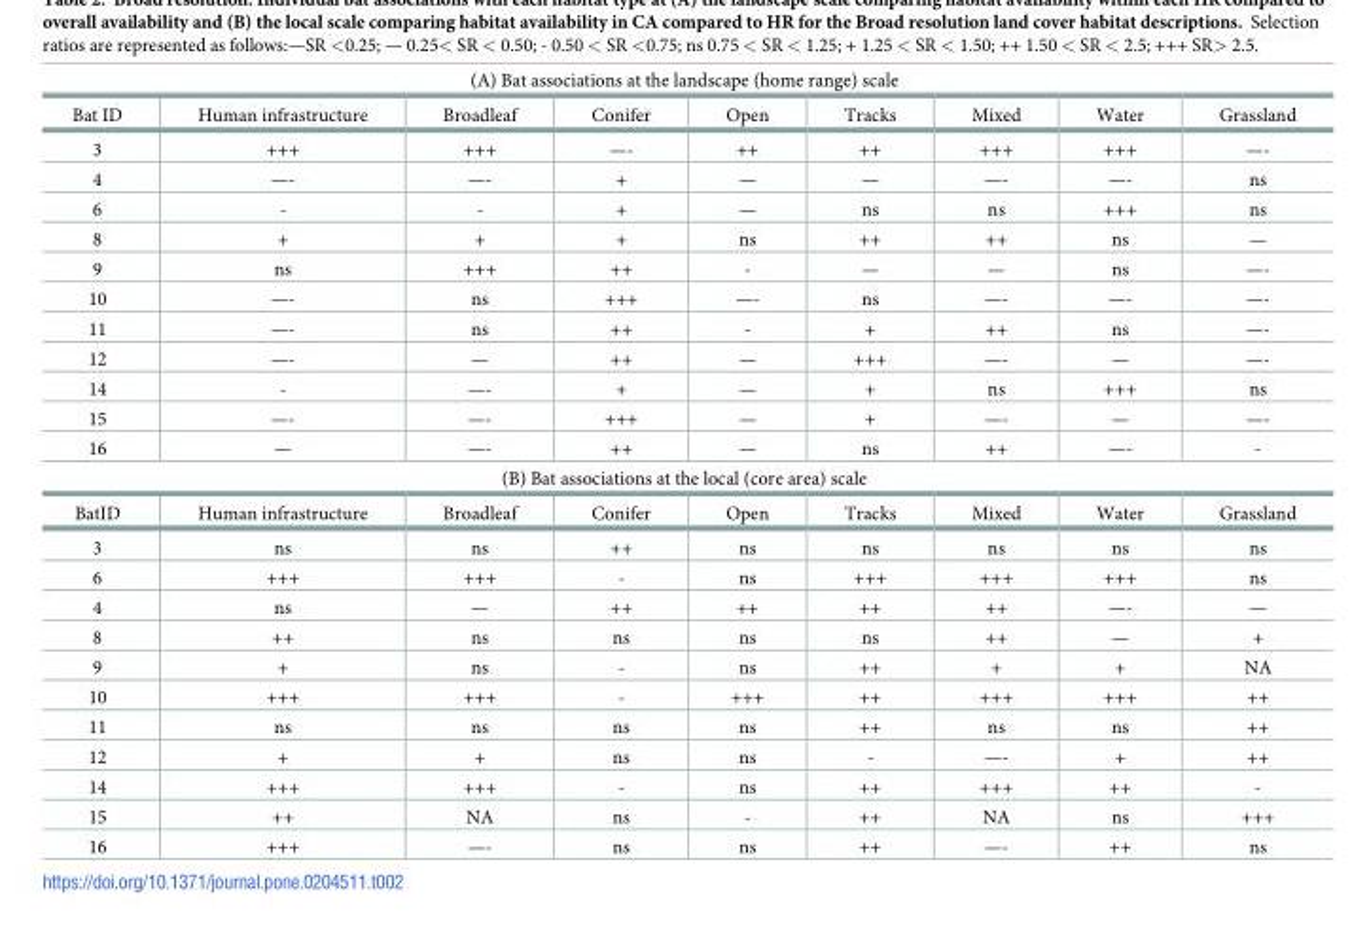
<table><tbody><tr><td colspan="9">(A) Bat associations at the landscape (home range) scale</td></tr><tr><td>Bat ID</td><td>Human infrastructure</td><td>Broadleaf</td><td>Conifer</td><td>Open</td><td>Tracks</td><td>Mixed</td><td>Water</td><td>Grassland</td></tr><tr><td>3</td><td>+++</td><td>+++</td><td>—-</td><td>++</td><td>++</td><td>+++</td><td>+++</td><td>—-</td></tr><tr><td>4</td><td>—-</td><td>—-</td><td>+</td><td>—</td><td>—</td><td>—-</td><td>—-</td><td>ns</td></tr><tr><td>6</td><td>-</td><td>-</td><td>+</td><td>—</td><td>ns</td><td>ns</td><td>+++</td><td>ns</td></tr><tr><td>8</td><td>+</td><td>+</td><td>+</td><td>ns</td><td>++</td><td>++</td><td>ns</td><td>—</td></tr><tr><td>9</td><td>ns</td><td>+++</td><td>++</td><td>-</td><td>—</td><td>—</td><td>ns</td><td>—-</td></tr><tr><td>10</td><td>—-</td><td>ns</td><td>+++</td><td>—-</td><td>ns</td><td>—-</td><td>—-</td><td>—-</td></tr><tr><td>11</td><td>—-</td><td>ns</td><td>++</td><td>-</td><td>+</td><td>++</td><td>ns</td><td>—-</td></tr><tr><td>12</td><td>—-</td><td>—</td><td>++</td><td>—</td><td>+++</td><td>—-</td><td>—</td><td>—-</td></tr><tr><td>14</td><td>-</td><td>—-</td><td>+</td><td>—</td><td>+</td><td>ns</td><td>+++</td><td>ns</td></tr><tr><td>15</td><td>—-</td><td>—-</td><td>+++</td><td>—</td><td>+</td><td>—-</td><td>—</td><td>—-</td></tr><tr><td>16</td><td>—</td><td>—-</td><td>++</td><td>—</td><td>ns</td><td>++</td><td>—-</td><td>-</td></tr><tr><td colspan="9">(B) Bat associations at the local (core area) scale</td></tr><tr><td>BatID</td><td>Human infrastructure</td><td>Broadleaf</td><td>Conifer</td><td>Open</td><td>Tracks</td><td>Mixed</td><td>Water</td><td>Grassland</td></tr><tr><td>3</td><td>ns</td><td>ns</td><td>++</td><td>ns</td><td>ns</td><td>ns</td><td>ns</td><td>ns</td></tr><tr><td>6</td><td>+++</td><td>+++</td><td>-</td><td>ns</td><td>+++</td><td>+++</td><td>+++</td><td>ns</td></tr><tr><td>4</td><td>ns</td><td>—</td><td>++</td><td>++</td><td>++</td><td>++</td><td>—-</td><td>—</td></tr><tr><td>8</td><td>++</td><td>ns</td><td>ns</td><td>ns</td><td>ns</td><td>++</td><td>—</td><td>+</td></tr><tr><td>9</td><td>+</td><td>ns</td><td>-</td><td>ns</td><td>++</td><td>+</td><td>+</td><td>NA</td></tr><tr><td>10</td><td>+++</td><td>+++</td><td>-</td><td>+++</td><td>++</td><td>+++</td><td>+++</td><td>++</td></tr><tr><td>11</td><td>ns</td><td>ns</td><td>ns</td><td>ns</td><td>++</td><td>ns</td><td>ns</td><td>++</td></tr><tr><td>12</td><td>+</td><td>+</td><td>ns</td><td>ns</td><td>-</td><td>—-</td><td>+</td><td>++</td></tr><tr><td>14</td><td>+++</td><td>+++</td><td>-</td><td>ns</td><td>++</td><td>+++</td><td>++</td><td>-</td></tr><tr><td>15</td><td>++</td><td>NA</td><td>ns</td><td>-</td><td>++</td><td>NA</td><td>ns</td><td>+++</td></tr><tr><td>16</td><td>+++</td><td>—-</td><td>ns</td><td>ns</td><td>++</td><td>—-</td><td>++</td><td>ns</td></tr></tbody></table>